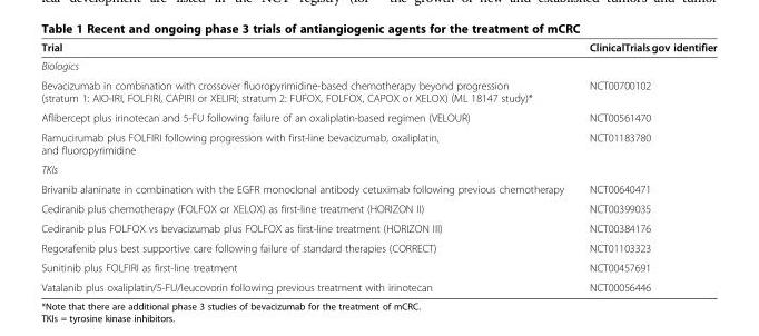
<table><thead><tr><td>Trial</td><td>ClinicalTrials.gov identifier</td></tr></thead><tbody><tr><td colspan="2">Biologics</td></tr><tr><td>Bevacizumab in combination with crossover fluoropyrimidine-based chemotherapy beyond progression (stratum 1: AIO-IRI, FOLFIRI, CAPIRI or XELIRI; stratum 2: FUFOX, FOLFOX, CAPOX or XELOX) (ML 18147 study)*</td><td>NCT00700102</td></tr><tr><td>Aflibercept plus irinotecan and 5-FU following failure of an oxaliplatin-based regimen (VELOUR)</td><td>NCT00561470</td></tr><tr><td>Ramucirumab plus FOLFIRI following progression with first-line bevacizumab, oxaliplatin, and fluoropyrimidine</td><td>NCT01183780</td></tr><tr><td colspan="2">TKIs</td></tr><tr><td>Brivanib alaninate in combination with the EGFR monoclonal antibody cetuximab following previous chemotherapy</td><td>NCT00640471</td></tr><tr><td>Cediranib plus chemotherapy (FOLFOX or XELOX) as first-line treatment (HORIZON II)</td><td>NCT00399035</td></tr><tr><td>Cediranib plus FOLFOX vs bevacizumab plus FOLFOX as first-line treatment (HORIZON III)</td><td>NCT00384176</td></tr><tr><td>Regorafenib plus best supportive care following failure of standard therapies (CORRECT)</td><td>NCT01103323</td></tr><tr><td>Sunitinib plus FOLFIRI as first-line treatment</td><td>NCT00457691</td></tr><tr><td>Vatalanib plus oxaliplatin/5-FU/leucovorin following previous treatment with irinotecan</td><td>NCT00056446</td></tr></tbody></table>